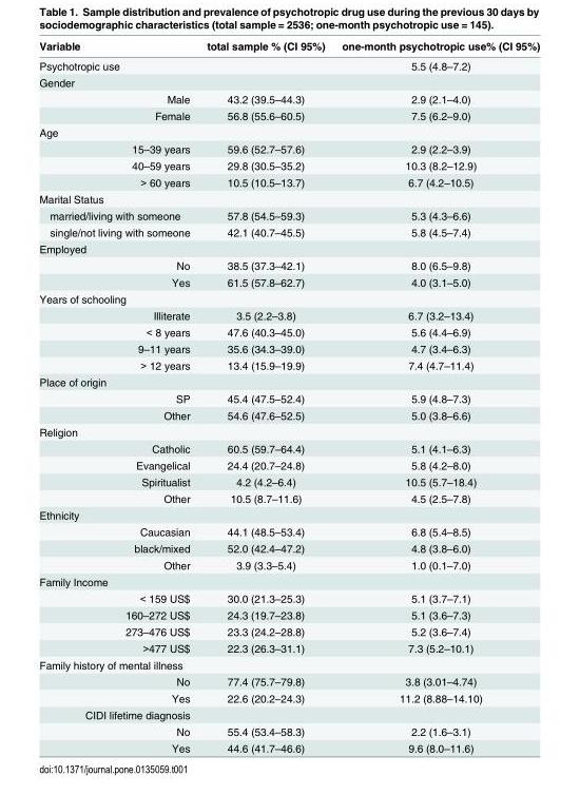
<table><thead><tr><td>Variable</td><td>total sample % (CI 95%)</td><td>one-month psychotropic use% (CI 95%)</td></tr></thead><tbody><tr><td>Psychotropic use</td><td></td><td>5.5 (4.8–7.2)</td></tr><tr><td colspan="3">Gender</td></tr><tr><td>Male</td><td>43.2 (39.5–44.3)</td><td>2.9 (2.1–4.0)</td></tr><tr><td>Female</td><td>56.8 (55.6–60.5)</td><td>7.5 (6.2–9.0)</td></tr><tr><td colspan="3">Age</td></tr><tr><td>15–39 years</td><td>59.6 (52.7–57.6)</td><td>2.9 (2.2–3.9)</td></tr><tr><td>40–59 years</td><td>29.8 (30.5–35.2)</td><td>10.3 (8.2–12.9)</td></tr><tr><td>&gt; 60 years</td><td>10.5 (10.5–13.7)</td><td>6.7 (4.2–10.5)</td></tr><tr><td colspan="3">Marital Status</td></tr><tr><td>married/living with someone</td><td>57.8 (54.5–59.3)</td><td>5.3 (4.3–6.6)</td></tr><tr><td>single/not living with someone</td><td>42.1 (40.7–45.5)</td><td>5.8 (4.5–7.4)</td></tr><tr><td colspan="3">Employed</td></tr><tr><td>No</td><td>38.5 (37.3–42.1)</td><td>8.0 (6.5–9.8)</td></tr><tr><td>Yes</td><td>61.5 (57.8–62.7)</td><td>4.0 (3.1–5.0)</td></tr><tr><td colspan="3">Years of schooling</td></tr><tr><td>Illiterate</td><td>3.5 (2.2–3.8)</td><td>6.7 (3.2–13.4)</td></tr><tr><td>&lt; 8 years</td><td>47.6 (40.3–45.0)</td><td>5.6 (4.4–6.9)</td></tr><tr><td>9–11 years</td><td>35.6 (34.3–39.0)</td><td>4.7 (3.4–6.3)</td></tr><tr><td>&gt; 12 years</td><td>13.4 (15.9–19.9)</td><td>7.4 (4.7–11.4)</td></tr><tr><td colspan="3">Place of origin</td></tr><tr><td>SP</td><td>45.4 (47.5–52.4)</td><td>5.9 (4.8–7.3)</td></tr><tr><td>Other</td><td>54.6 (47.6–52.5)</td><td>5.0 (3.8–6.6)</td></tr><tr><td colspan="3">Religion</td></tr><tr><td>Catholic</td><td>60.5 (59.7–64.4)</td><td>5.1 (4.1–6.3)</td></tr><tr><td>Evangelical</td><td>24.4 (20.7–24.8)</td><td>5.8 (4.2–8.0)</td></tr><tr><td>Spiritualist</td><td>4.2 (4.2–6.4)</td><td>10.5 (5.7–18.4)</td></tr><tr><td>Other</td><td>10.5 (8.7–11.6)</td><td>4.5 (2.5–7.8)</td></tr><tr><td colspan="3">Ethnicity</td></tr><tr><td>Caucasian</td><td>44.1 (48.5–53.4)</td><td>6.8 (5.4–8.5)</td></tr><tr><td>black/mixed</td><td>52.0 (42.4–47.2)</td><td>4.8 (3.8–6.0)</td></tr><tr><td>Other</td><td>3.9 (3.3–5.4)</td><td>1.0 (0.1–7.0)</td></tr><tr><td colspan="3">Family Income</td></tr><tr><td>&lt; 159 US$</td><td>30.0 (21.3–25.3)</td><td>5.1 (3.7–7.1)</td></tr><tr><td>160–272 US$</td><td>24.3 (19.7–23.8)</td><td>5.1 (3.6–7.3)</td></tr><tr><td>273–476 US$</td><td>23.3 (24.2–28.8)</td><td>5.2 (3.6–7.4)</td></tr><tr><td>&gt;477 US$</td><td>22.3 (26.3–31.1)</td><td>7.3 (5.2–10.1)</td></tr><tr><td colspan="3">Family history of mental illness</td></tr><tr><td>No</td><td>77.4 (75.7–79.8)</td><td>3.8 (3.01–4.74)</td></tr><tr><td>Yes</td><td>22.6 (20.2–24.3)</td><td>11.2 (8.88–14.10)</td></tr><tr><td colspan="3">CIDI lifetime diagnosis</td></tr><tr><td>No</td><td>55.4 (53.4–58.3)</td><td>2.2 (1.6–3.1)</td></tr><tr><td>Yes</td><td>44.6 (41.7–46.6)</td><td>9.6 (8.0–11.6)</td></tr></tbody></table>